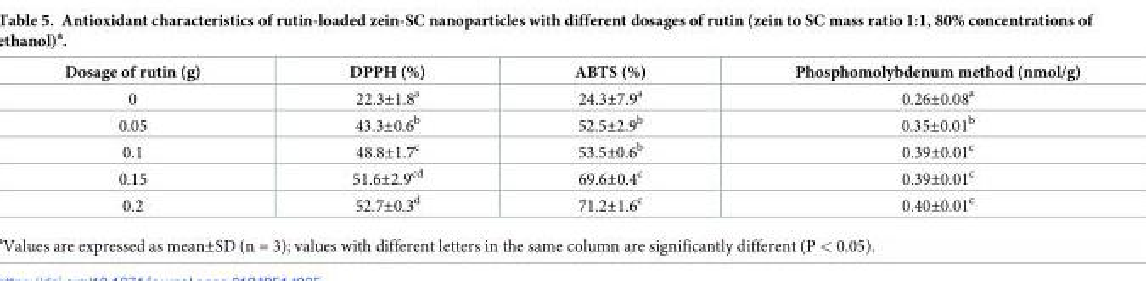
<table><thead><tr><td>Dosage of rutin (g)</td><td>DPPH (%)</td><td>ABTS (%)</td><td>Phosphomolybdenum method (nmol/g)</td></tr></thead><tbody><tr><td>0</td><td>22.3±1.8<sup>a</sup></td><td>24.3±7.9<sup>a</sup></td><td>0.26±0.08<sup>a</sup></td></tr><tr><td>0.05</td><td>43.3±0.6<sup>b</sup></td><td>52.5±2.9<sup>b</sup></td><td>0.35±0.01<sup>b</sup></td></tr><tr><td>0.1</td><td>48.8±1.7<sup>c</sup></td><td>53.5±0.6<sup>b</sup></td><td>0.39±0.01<sup>c</sup></td></tr><tr><td>0.15</td><td>51.6±2.9<sup>cd</sup></td><td>69.6±0.4<sup>c</sup></td><td>0.39±0.01<sup>c</sup></td></tr><tr><td>0.2</td><td>52.7±0.3<sup>d</sup></td><td>71.2±1.6<sup>c</sup></td><td>0.40±0.01<sup>c</sup></td></tr></tbody></table>